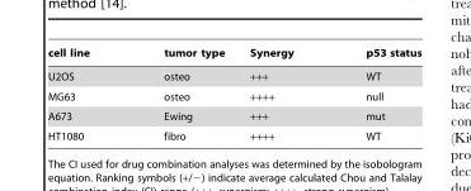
<table><thead><tr><td>cell line</td><td>tumor type</td><td>Synergy</td><td>p53 status</td></tr></thead><tbody><tr><td>U2OS</td><td>osteo</td><td>+++</td><td>WT</td></tr><tr><td>MG63</td><td>osteo</td><td>++++</td><td>null</td></tr><tr><td>A673</td><td>Ewing</td><td>+++</td><td>mut</td></tr><tr><td>HT1080</td><td>fibro</td><td>++++</td><td>WT</td></tr></tbody></table>